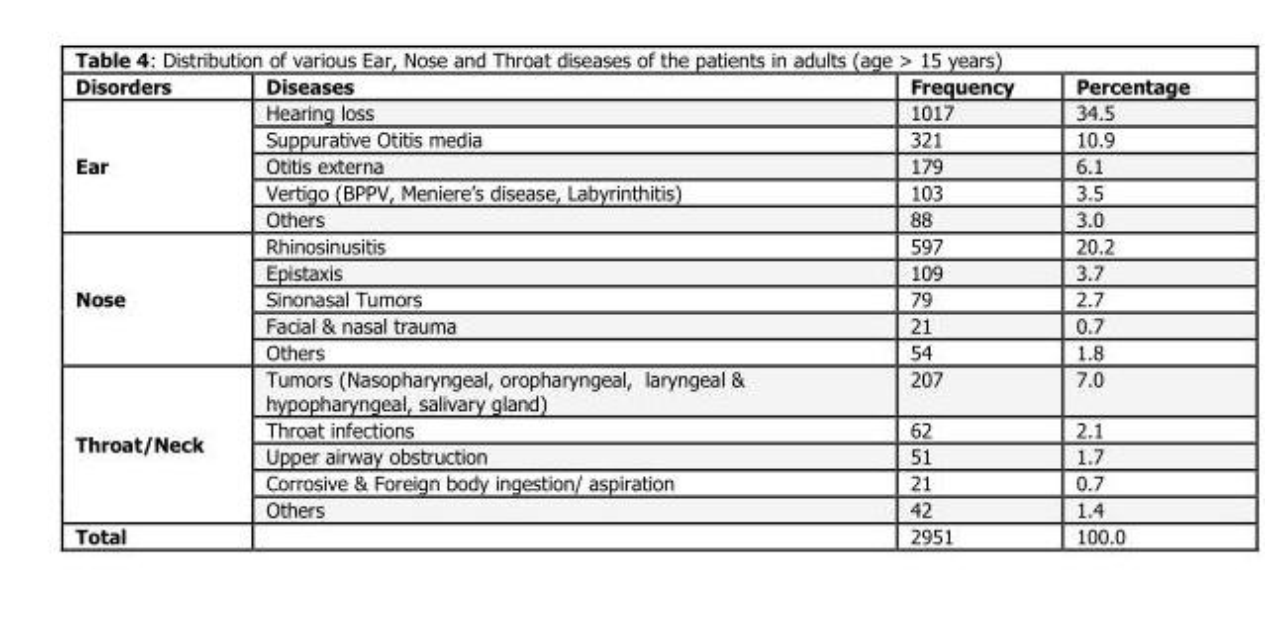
<table><thead><tr><td>Disorders</td><td>Diseases</td><td>Frequency</td><td>Percentage</td></tr></thead><tbody><tr><td rowspan="5">Ear</td><td>Hearing loss</td><td>1017</td><td>34.5</td></tr><tr><td>Suppurative Otitis media</td><td>321</td><td>10.9</td></tr><tr><td>Otitis externa</td><td>179</td><td>6.1</td></tr><tr><td>Vertigo (BPPV, Meniere’s disease, Labyrinthitis)</td><td>103</td><td>3.5</td></tr><tr><td>Others</td><td>88</td><td>3.0</td></tr><tr><td rowspan="5">Nose</td><td>Rhinosinusitis</td><td>597</td><td>20.2</td></tr><tr><td>Epistaxis</td><td>109</td><td>3.7</td></tr><tr><td>Sinonasal Tumors</td><td>79</td><td>2.7</td></tr><tr><td>Facial &amp; nasal trauma</td><td>21</td><td>0.7</td></tr><tr><td>Others</td><td>54</td><td>1.8</td></tr><tr><td rowspan="5">Throat/Neck</td><td>Tumors (Nasopharyngeal, oropharyngeal, laryngeal &amp; hypopharyngeal, salivary gland)</td><td>207</td><td>7.0</td></tr><tr><td>Throat infections</td><td>62</td><td>2.1</td></tr><tr><td>Upper airway obstruction</td><td>51</td><td>1.7</td></tr><tr><td>Corrosive &amp; Foreign body ingestion/ aspiration</td><td>21</td><td>0.7</td></tr><tr><td>Others</td><td>42</td><td>1.4</td></tr><tr><td>Total</td><td></td><td>2951</td><td>100.0</td></tr></tbody></table>